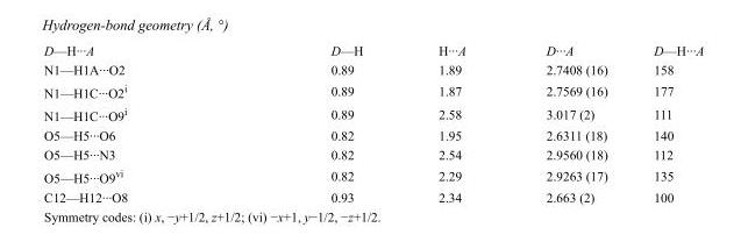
<table><tbody><tr><td>D—H···A</td><td>D—H</td><td>H···A</td><td>D···A</td><td>D—H···A</td></tr><tr><td>N1—H1A···O2</td><td>0.89</td><td>1.89</td><td>2.7408 (16)</td><td>158</td></tr><tr><td>N1—H1C···O2<sup>i</sup></td><td>0.89</td><td>1.87</td><td>2.7569 (16)</td><td>177</td></tr><tr><td>N1—H1C···O9<sup>i</sup></td><td>0.89</td><td>2.58</td><td>3.017 (2)</td><td>111</td></tr><tr><td>O5—H5···O6</td><td>0.82</td><td>1.95</td><td>2.6311 (18)</td><td>140</td></tr><tr><td>O5—H5···N3</td><td>0.82</td><td>2.54</td><td>2.9560 (18)</td><td>112</td></tr><tr><td>O5—H5···O9<sup>vi</sup></td><td>0.82</td><td>2.29</td><td>2.9263 (17)</td><td>135</td></tr><tr><td>C12—H12···O8</td><td>0.93</td><td>2.34</td><td>2.663 (2)</td><td>100</td></tr></tbody></table>